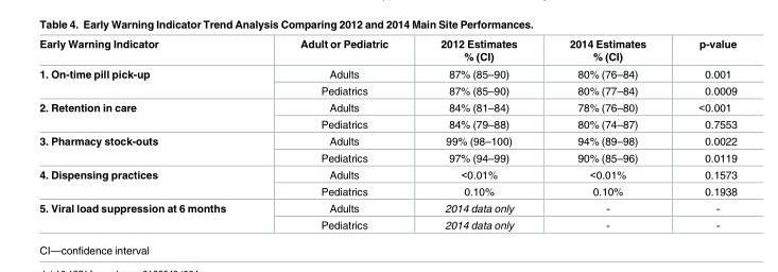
<table><thead><tr><td>Early Warning Indicator</td><td>Adult or Pediatric</td><td>2012 Estimates % (CI)</td><td>2014 Estimates % (CI)</td><td>p-value</td></tr></thead><tbody><tr><td rowspan="2">1. On-time pill pick-up</td><td>Adults</td><td>87% (85–90)</td><td>80% (76–84)</td><td>0.001</td></tr><tr><td>Pediatrics</td><td>87% (85–90)</td><td>80% (77–84)</td><td>0.0009</td></tr><tr><td rowspan="2">2. Retention in care</td><td>Adults</td><td>84% (81–84)</td><td>78% (76–80)</td><td>&lt;0.001</td></tr><tr><td>Pediatrics</td><td>84% (79–88)</td><td>80% (74–87)</td><td>0.7553</td></tr><tr><td rowspan="2">3. Pharmacy stock-outs</td><td>Adults</td><td>99% (98–100)</td><td>94% (89–98)</td><td>0.0022</td></tr><tr><td>Pediatrics</td><td>97% (94–99)</td><td>90% (85–96)</td><td>0.0119</td></tr><tr><td rowspan="2">4. Dispensing practices</td><td>Adults</td><td>&lt;0.01%</td><td>&lt;0.01%</td><td>0.1573</td></tr><tr><td>Pediatrics</td><td>0.10%</td><td>0.10%</td><td>0.1938</td></tr><tr><td rowspan="2">5. Viral load suppression at 6 months</td><td>Adults</td><td>2014 data only</td><td>-</td><td>-</td></tr><tr><td>Pediatrics</td><td>2014 data only</td><td>-</td><td>-</td></tr></tbody></table>